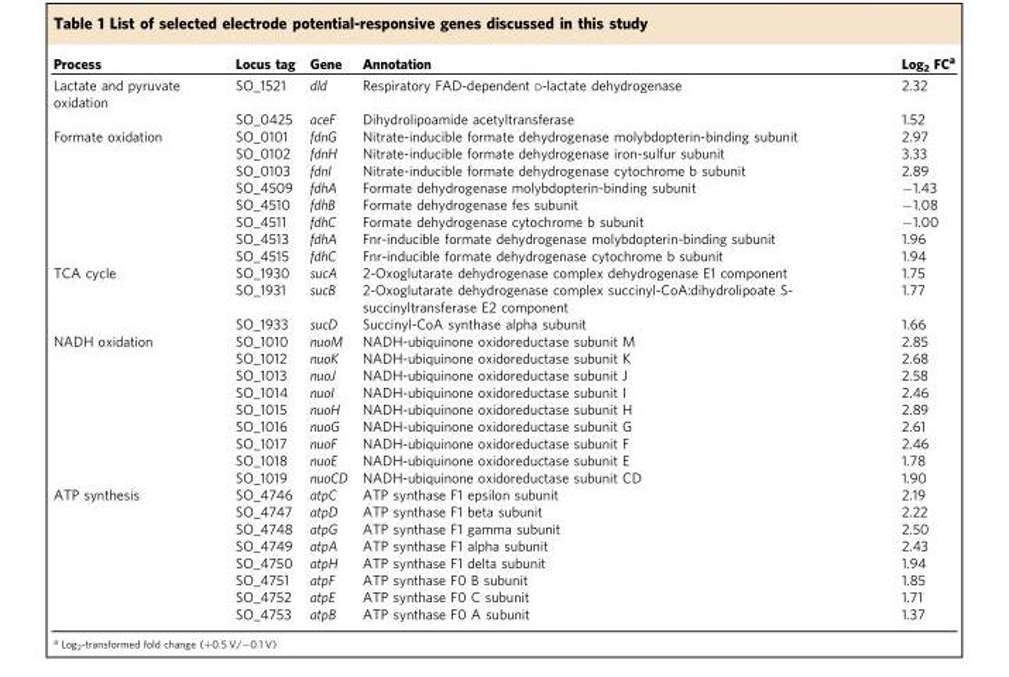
<table><thead><tr><td>Process</td><td>Locus tag</td><td>Gene</td><td>Annotation</td><td>Log<sub>2</sub> FC<sup>a</sup></td></tr></thead><tbody><tr><td rowspan="2">Lactate and pyruvate oxidation</td><td>SO_1521</td><td>dld</td><td>Respiratory FAD-dependent D-lactate dehydrogenase</td><td>2.32</td></tr><tr><td>SO_0425</td><td>aceF</td><td>Dihydrolipoamide acetyltransferase</td><td>1.52</td></tr><tr><td rowspan="8">Formate oxidation</td><td>SO_0101</td><td>fdnG</td><td>Nitrate-inducible formate dehydrogenase molybdopterin-binding subunit</td><td>2.97</td></tr><tr><td>SO_0102</td><td>fdnH</td><td>Nitrate-inducible formate dehydrogenase iron-sulfur subunit</td><td>3.33</td></tr><tr><td>SO_0103</td><td>fdnI</td><td>Nitrate-inducible formate dehydrogenase cytochrome b subunit</td><td>2.89</td></tr><tr><td>SO_4509</td><td>fdhA</td><td>Formate dehydrogenase molybdopterin-binding subunit</td><td>−1.43</td></tr><tr><td>SO_4510</td><td>fdhB</td><td>Formate dehydrogenase fes subunit</td><td>−1.08</td></tr><tr><td>SO_4511</td><td>fdhC</td><td>Formate dehydrogenase cytochrome b subunit</td><td>−1.00</td></tr><tr><td>SO_4513</td><td>fdhA</td><td>Fnr-inducible formate dehydrogenase molybdopterin-binding subunit</td><td>1.96</td></tr><tr><td>SO_4515</td><td>fdhC</td><td>Fnr-inducible formate dehydrogenase cytochrome b subunit</td><td>1.94</td></tr><tr><td rowspan="3">TCA cycle</td><td>SO_1930</td><td>sucA</td><td>2-Oxoglutarate dehydrogenase complex dehydrogenase E1 component</td><td>1.75</td></tr><tr><td>SO_1931</td><td>sucB</td><td>2-Oxoglutarate dehydrogenase complex succinyl-CoA:dihydrolipoate S- succinyltransferase E2 component</td><td>1.77</td></tr><tr><td>SO_1933</td><td>sucD</td><td>Succinyl-CoA synthase alpha subunit</td><td>1.66</td></tr><tr><td rowspan="9">NADH oxidation</td><td>SO_1010</td><td>nuoM</td><td>NADH-ubiquinone oxidoreductase subunit M</td><td>2.85</td></tr><tr><td>SO_1012</td><td>nuoK</td><td>NADH-ubiquinone oxidoreductase subunit K</td><td>2.68</td></tr><tr><td>SO_1013</td><td>nuoJ</td><td>NADH-ubiquinone oxidoreductase subunit J</td><td>2.58</td></tr><tr><td>SO_1014</td><td>nuoI</td><td>NADH-ubiquinone oxidoreductase subunit I</td><td>2.46</td></tr><tr><td>SO_1015</td><td>nuoH</td><td>NADH-ubiquinone oxidoreductase subunit H</td><td>2.89</td></tr><tr><td>SO_1016</td><td>nuoG</td><td>NADH-ubiquinone oxidoreductase subunit G</td><td>2.61</td></tr><tr><td>SO_1017</td><td>nuoF</td><td>NADH-ubiquinone oxidoreductase subunit F</td><td>2.46</td></tr><tr><td>SO_1018</td><td>nuoE</td><td>NADH-ubiquinone oxidoreductase subunit E</td><td>1.78</td></tr><tr><td>SO_1019</td><td>nuoCD</td><td>NADH-ubiquinone oxidoreductase subunit CD</td><td>1.90</td></tr><tr><td rowspan="8">ATP synthesis</td><td>SO_4746</td><td>atpC</td><td>ATP synthase F1 epsilon subunit</td><td>2.19</td></tr><tr><td>SO_4747</td><td>atpD</td><td>ATP synthase F1 beta subunit</td><td>2.22</td></tr><tr><td>SO_4748</td><td>atpG</td><td>ATP synthase F1 gamma subunit</td><td>2.50</td></tr><tr><td>SO_4749</td><td>atpA</td><td>ATP synthase F1 alpha subunit</td><td>2.43</td></tr><tr><td>SO_4750</td><td>atpH</td><td>ATP synthase F1 delta subunit</td><td>1.94</td></tr><tr><td>SO_4751</td><td>atpF</td><td>ATP synthase F0 B subunit</td><td>1.85</td></tr><tr><td>SO_4752</td><td>atpE</td><td>ATP synthase F0 C subunit</td><td>1.71</td></tr><tr><td>SO_4753</td><td>atpB</td><td>ATP synthase F0 A subunit</td><td>1.37</td></tr></tbody></table>